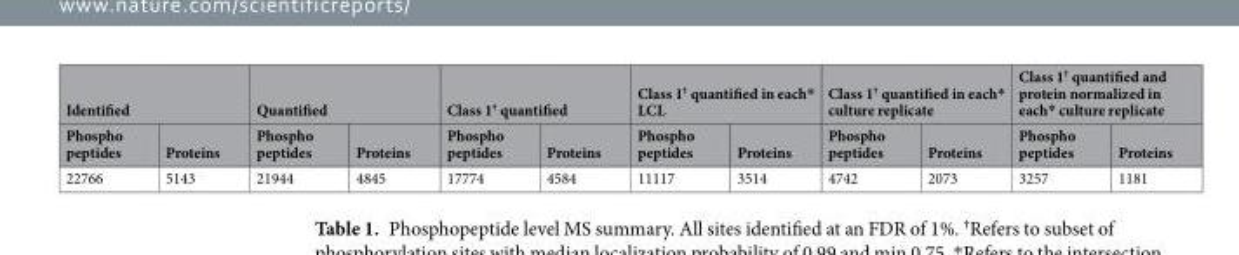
<table><thead><tr><td colspan="2">Identified</td><td colspan="2">Quantified</td><td colspan="2">Class 1<sup>†</sup> quantified</td><td colspan="2">Class 1<sup>†</sup> quantified in each* LCL</td><td colspan="2">Class 1<sup>†</sup> quantified in each* culture replicate</td><td colspan="2">Class 1<sup>†</sup> quantified and protein normalized in each* culture replicate</td></tr><tr><td>Phospho peptides</td><td>Proteins</td><td>Phospho peptides</td><td>Proteins</td><td>Phospho peptides</td><td>Proteins</td><td>Phospho peptides</td><td>Proteins</td><td>Phospho peptides</td><td>Proteins</td><td>Phospho peptides</td><td>Proteins</td></tr></thead><tbody><tr><td>22766</td><td>5143</td><td>21944</td><td>4845</td><td>17774</td><td>4584</td><td>11117</td><td>3514</td><td>4742</td><td>2073</td><td>3257</td><td>1181</td></tr></tbody></table>